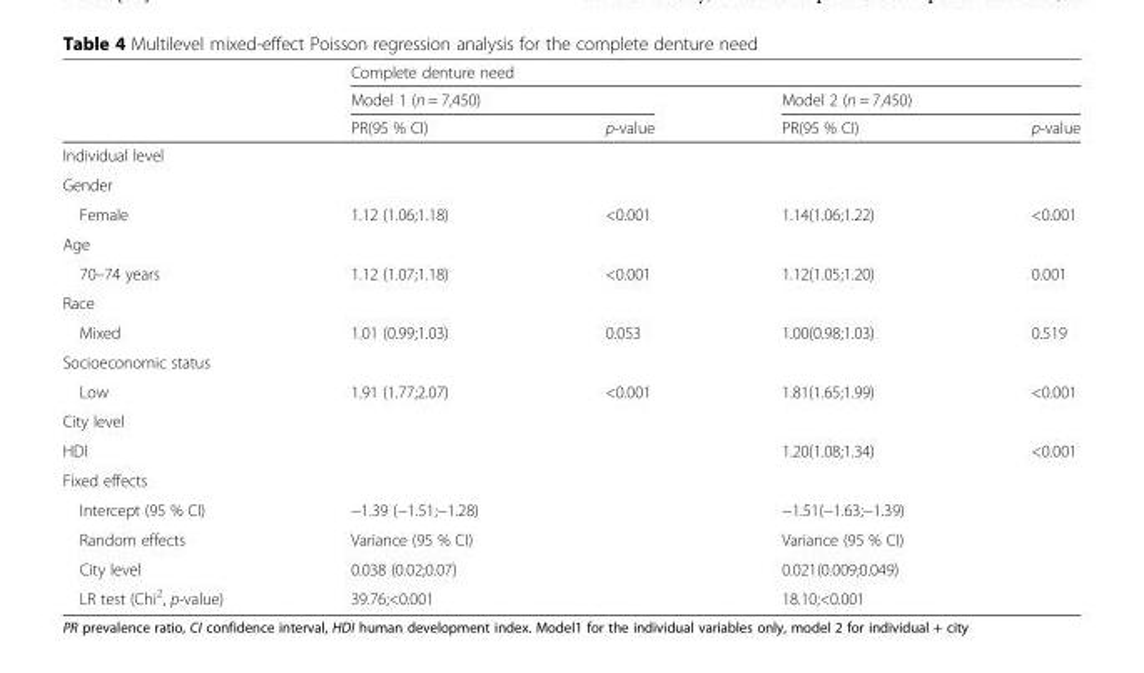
<table><thead><tr><td rowspan="3"></td><td colspan="4">Complete denture need</td></tr><tr><td colspan="2">Model 1 (n = 7,450)</td><td colspan="2">Model 2 (n = 7,450)</td></tr><tr><td>PR(95 % CI)</td><td>p-value</td><td>PR(95 % CI)</td><td>p-value</td></tr></thead><tbody><tr><td colspan="5">Individual level</td></tr><tr><td colspan="5">Gender</td></tr><tr><td>Female</td><td>1.12 (1.06;1.18)</td><td>&lt;0.001</td><td>1.14(1.06;1.22)</td><td>&lt;0.001</td></tr><tr><td colspan="5">Age</td></tr><tr><td>70–74 years</td><td>1.12 (1.07;1.18)</td><td>&lt;0.001</td><td>1.12(1.05;1.20)</td><td>0.001</td></tr><tr><td colspan="5">Race</td></tr><tr><td>Mixed</td><td>1.01 (0.99;1.03)</td><td>0.053</td><td>1.00(0.98;1.03)</td><td>0.519</td></tr><tr><td colspan="5">Socioeconomic status</td></tr><tr><td>Low</td><td>1.91 (1.77;2.07)</td><td>&lt;0.001</td><td>1.81(1.65;1.99)</td><td>&lt;0.001</td></tr><tr><td colspan="5">City level</td></tr><tr><td>HDI</td><td></td><td></td><td>1.20(1.08;1.34)</td><td>&lt;0.001</td></tr><tr><td colspan="5">Fixed effects</td></tr><tr><td>Intercept (95 % CI)</td><td>−1.39 (−1.51;−1.28)</td><td></td><td>−1.51(−1.63;−1.39)</td><td></td></tr><tr><td>Random effects</td><td>Variance (95 % CI)</td><td></td><td>Variance (95 % CI)</td><td></td></tr><tr><td>City level</td><td>0.038 (0.02;0.07)</td><td></td><td>0.021(0.009;0.049)</td><td></td></tr><tr><td>LR test (Chi<sup>2</sup>, p-value)</td><td>39.76;&lt;0.001</td><td></td><td>18.10;&lt;0.001</td><td></td></tr></tbody></table>